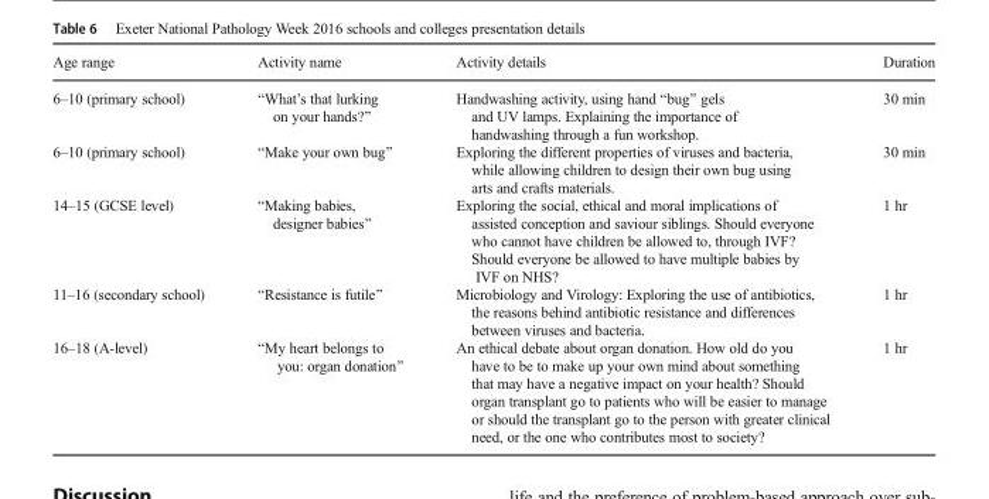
<table><thead><tr><td>Age range</td><td>Activity name</td><td>Activity details</td><td>Duration</td></tr></thead><tbody><tr><td>6–10 (primary school)</td><td>“What’s that lurking on your hands?”</td><td>Handwashing activity, using hand “bug” gels and UV lamps. Explaining the importance of handwashing through a fun workshop.</td><td>30 min</td></tr><tr><td>6–10 (primary school)</td><td>“Make your own bug”</td><td>Exploring the different properties of viruses and bacteria, while allowing children to design their own bug using arts and crafts materials.</td><td>30 min</td></tr><tr><td>14–15 (GCSE level)</td><td>“Making babies, designer babies”</td><td>Exploring the social, ethical and moral implications of assisted conception and saviour siblings. Should everyone who cannot have children be allowed to, through IVF? Should everyone be allowed to have multiple babies by IVF on NHS?</td><td>1 hr</td></tr><tr><td>11–16 (secondary school)</td><td>“Resistance is futile”</td><td>Microbiology and Virology: Exploring the use of antibiotics, the reasons behind antibiotic resistance and differences between viruses and bacteria.</td><td>1 hr</td></tr><tr><td>16–18 (A-level)</td><td>“My heart belongs to you: organ donation”</td><td>An ethical debate about organ donation. How old do you have to be to make up your own mind about something that may have a negative impact on your health? Should organ transplant go to patients who will be easier to manage or should the transplant go to the person with greater clinical need, or the one who contributes most to society?</td><td>1 hr</td></tr></tbody></table>